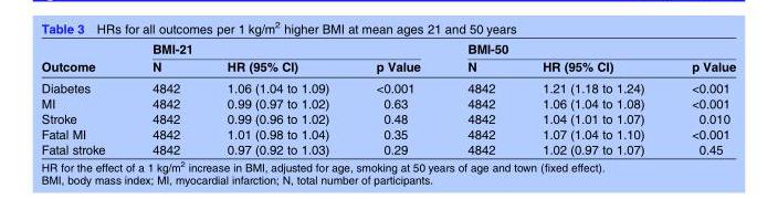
<table><thead><tr><td rowspan="2">Outcome</td><td colspan="3">BMI-21</td><td colspan="3">BMI-50</td></tr><tr><td>N</td><td>HR (95% CI)</td><td>p Value</td><td>N</td><td>HR (95% CI)</td><td>p Value</td></tr></thead><tbody><tr><td>Diabetes</td><td>4842</td><td>1.06 (1.04 to 1.09)</td><td>&lt;0.001</td><td>4842</td><td>1.21 (1.18 to 1.24)</td><td>&lt;0.001</td></tr><tr><td>MI</td><td>4842</td><td>0.99 (0.97 to 1.02)</td><td>0.63</td><td>4842</td><td>1.06 (1.04 to 1.08)</td><td>&lt;0.001</td></tr><tr><td>Stroke</td><td>4842</td><td>0.99 (0.96 to 1.02)</td><td>0.48</td><td>4842</td><td>1.04 (1.01 to 1.07)</td><td>0.010</td></tr><tr><td>Fatal MI</td><td>4842</td><td>1.01 (0.98 to 1.04)</td><td>0.35</td><td>4842</td><td>1.07 (1.04 to 1.10)</td><td>&lt;0.001</td></tr><tr><td>Fatal stroke</td><td>4842</td><td>0.97 (0.92 to 1.03)</td><td>0.29</td><td>4842</td><td>1.02 (0.97 to 1.07)</td><td>0.45</td></tr></tbody></table>